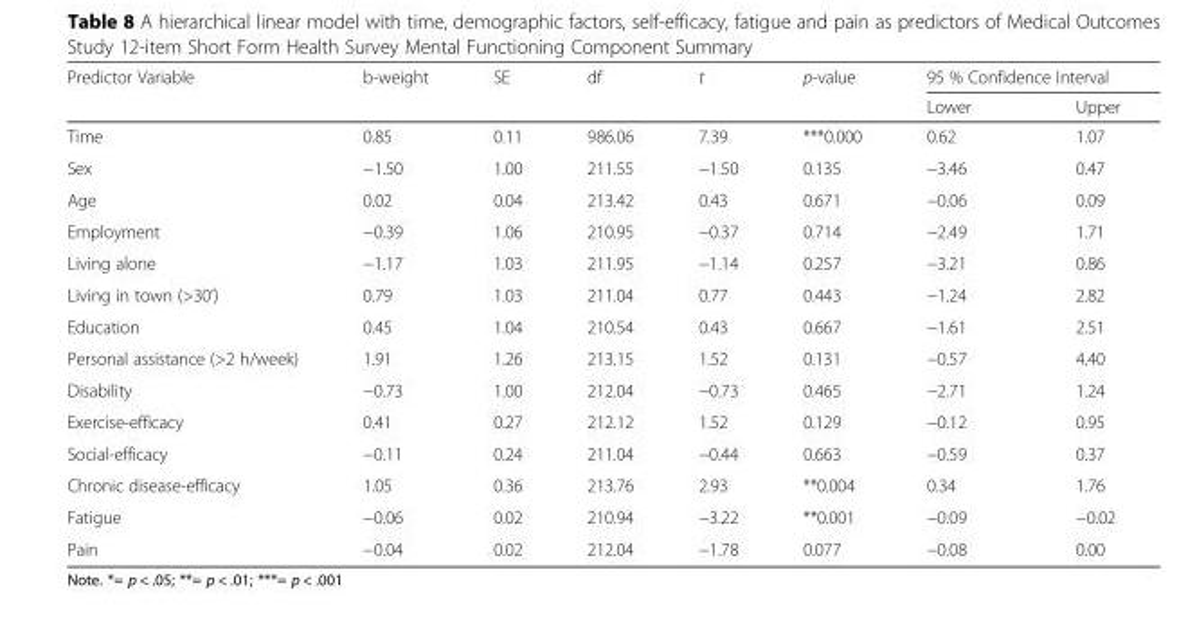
<table><thead><tr><td rowspan="2">Predictor Variable</td><td rowspan="2">b-weight</td><td rowspan="2">SE</td><td rowspan="2">df</td><td rowspan="2">t</td><td rowspan="2">p-value</td><td colspan="2">95 % Confidence Interval</td></tr><tr><td>Lower</td><td>Upper</td></tr></thead><tbody><tr><td>Time</td><td>0.85</td><td>0.11</td><td>986.06</td><td>7.39</td><td>***0.000</td><td>0.62</td><td>1.07</td></tr><tr><td>Sex</td><td>−1.50</td><td>1.00</td><td>211.55</td><td>−1.50</td><td>0.135</td><td>−3.46</td><td>0.47</td></tr><tr><td>Age</td><td>0.02</td><td>0.04</td><td>213.42</td><td>0.43</td><td>0.671</td><td>−0.06</td><td>0.09</td></tr><tr><td>Employment</td><td>−0.39</td><td>1.06</td><td>210.95</td><td>−0.37</td><td>0.714</td><td>−2.49</td><td>1.71</td></tr><tr><td>Living alone</td><td>−1.17</td><td>1.03</td><td>211.95</td><td>−1.14</td><td>0.257</td><td>−3.21</td><td>0.86</td></tr><tr><td>Living in town (&gt;30’)</td><td>0.79</td><td>1.03</td><td>211.04</td><td>0.77</td><td>0.443</td><td>−1.24</td><td>2.82</td></tr><tr><td>Education</td><td>0.45</td><td>1.04</td><td>210.54</td><td>0.43</td><td>0.667</td><td>−1.61</td><td>2.51</td></tr><tr><td>Personal assistance (&gt;2 h/week)</td><td>1.91</td><td>1.26</td><td>213.15</td><td>1.52</td><td>0.131</td><td>−0.57</td><td>4.40</td></tr><tr><td>Disability</td><td>−0.73</td><td>1.00</td><td>212.04</td><td>−0.73</td><td>0.465</td><td>−2.71</td><td>1.24</td></tr><tr><td>Exercise-efficacy</td><td>0.41</td><td>0.27</td><td>212.12</td><td>1.52</td><td>0.129</td><td>−0.12</td><td>0.95</td></tr><tr><td>Social-efficacy</td><td>−0.11</td><td>0.24</td><td>211.04</td><td>−0.44</td><td>0.663</td><td>−0.59</td><td>0.37</td></tr><tr><td>Chronic disease-efficacy</td><td>1.05</td><td>0.36</td><td>213.76</td><td>2.93</td><td>**0.004</td><td>0.34</td><td>1.76</td></tr><tr><td>Fatigue</td><td>−0.06</td><td>0.02</td><td>210.94</td><td>−3.22</td><td>**0.001</td><td>−0.09</td><td>−0.02</td></tr><tr><td>Pain</td><td>−0.04</td><td>0.02</td><td>212.04</td><td>−1.78</td><td>0.077</td><td>−0.08</td><td>0.00</td></tr></tbody></table>